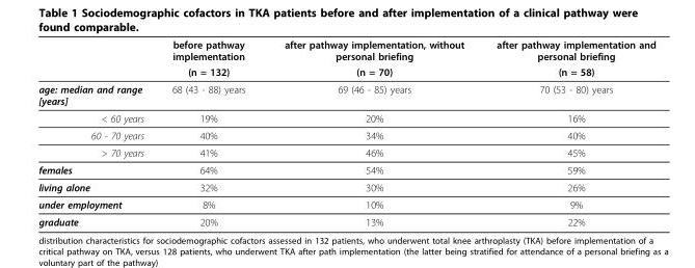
<table><thead><tr><td rowspan="2"></td><td rowspan="2">before pathway implementation (n = 132)</td><td rowspan="2">after pathway implementation, without personal briefing (n = 70)</td><td rowspan="2">after pathway implementation and personal briefing (n = 58)</td></tr><tr></tr></thead><tbody><tr><td>age: median and range [years]</td><td>68 (43 - 88) years</td><td>69 (46 - 85) years</td><td>70 (53 - 80) years</td></tr><tr><td>&lt; 60 years</td><td>19%</td><td>20%</td><td>16%</td></tr><tr><td>60 - 70 years</td><td>40%</td><td>34%</td><td>40%</td></tr><tr><td>&gt; 70 years</td><td>41%</td><td>46%</td><td>45%</td></tr><tr><td>females</td><td>64%</td><td>54%</td><td>59%</td></tr><tr><td>living alone</td><td>32%</td><td>30%</td><td>26%</td></tr><tr><td>under employment</td><td>8%</td><td>10%</td><td>9%</td></tr><tr><td>graduate</td><td>20%</td><td>13%</td><td>22%</td></tr></tbody></table>